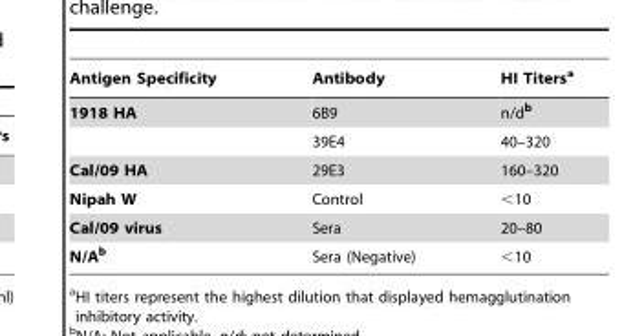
<table><thead><tr><td>Antigen Specificity</td><td>Antibody</td><td>HI Titers<sup>a</sup></td></tr></thead><tbody><tr><td rowspan="2">1918 HA</td><td>6B9</td><td>n/d<sup>b</sup></td></tr><tr><td>39E4</td><td>40–320</td></tr><tr><td>Cal/09 HA</td><td>29E3</td><td>160–320</td></tr><tr><td>Nipah W</td><td>Control</td><td>&lt;10</td></tr><tr><td>Cal/09 virus</td><td>Sera</td><td>20–80</td></tr><tr><td>N/Ab</td><td>Sera (Negative)</td><td>&lt;10</td></tr></tbody></table>